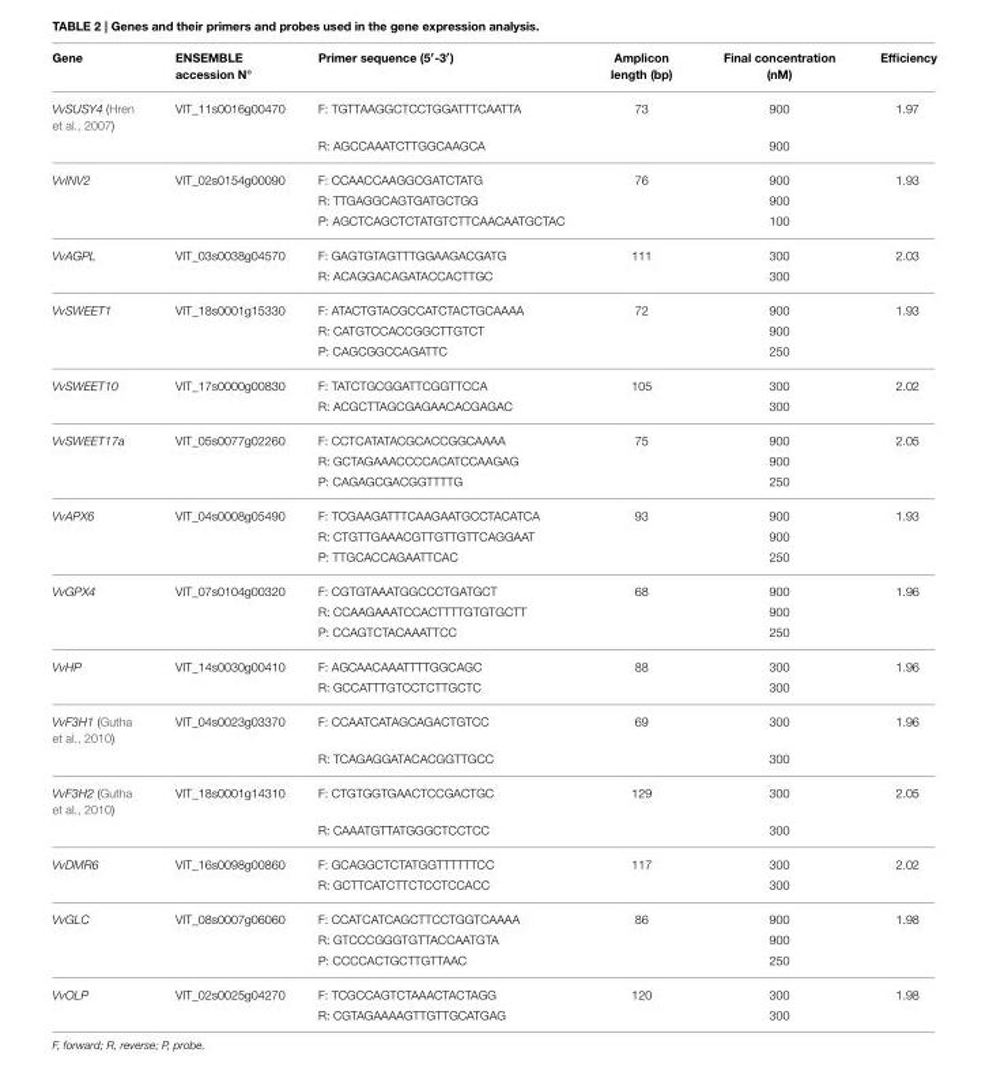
<table><thead><tr><td>Gene</td><td>ENSEMBLE accession N◦</td><td>Primer sequence (5′-3′)</td><td>Amplicon length (bp)</td><td>Final concentration (nM)</td><td>Efficiency</td></tr></thead><tbody><tr><td rowspan="2">VvSUSY4 (Hren et al., 2007)</td><td>VIT_11s0016g00470</td><td>F: TGTTAAGGCTCCTGGATTTCAATTA</td><td>73</td><td>900</td><td>1.97</td></tr><tr><td></td><td>R: AGCCAAATCTTGGCAAGCA</td><td></td><td>900</td><td></td></tr><tr><td rowspan="3">VvINV2</td><td>VIT_02s0154g00090</td><td>F: CCAACCAAGGCGATCTATG</td><td>76</td><td>900</td><td>1.93</td></tr><tr><td></td><td>R: TTGAGGCAGTGATGCTGG</td><td></td><td>900</td><td></td></tr><tr><td></td><td>P: AGCTCAGCTCTATGTCTTCAACAATGCTAC</td><td></td><td>100</td><td></td></tr><tr><td rowspan="2">VvAGPL</td><td>VIT_03s0038g04570</td><td>F: GAGTGTAGTTTGGAAGACGATG</td><td>111</td><td>300</td><td>2.03</td></tr><tr><td></td><td>R: ACAGGACAGATACCACTTGC</td><td></td><td>300</td><td></td></tr><tr><td rowspan="3">VvSWEET1</td><td>VIT_18s0001g15330</td><td>F: ATACTGTACGCCATCTACTGCAAAA</td><td>72</td><td>900</td><td>1.93</td></tr><tr><td></td><td>R: CATGTCCACCGGCTTGTCT</td><td></td><td>900</td><td></td></tr><tr><td></td><td>P: CAGCGGCCAGATTC</td><td></td><td>250</td><td></td></tr><tr><td rowspan="2">VvSWEET10</td><td>VIT_17s0000g00830</td><td>F: TATCTGCGGATTCGGTTCCA</td><td>105</td><td>300</td><td>2.02</td></tr><tr><td></td><td>R: ACGCTTAGCGAGAACACGAGAC</td><td></td><td>300</td><td></td></tr><tr><td rowspan="3">VvSWEET17a</td><td>VIT_05s0077g02260</td><td>F: CCTCATATACGCACCGGCAAAA</td><td>75</td><td>900</td><td>2.05</td></tr><tr><td></td><td>R: GCTAGAAACCCCACATCCAAGAG</td><td></td><td>900</td><td></td></tr><tr><td></td><td>P: CAGAGCGACGGTTTTG</td><td></td><td>250</td><td></td></tr><tr><td rowspan="3">VvAPX6</td><td>VIT_04s0008g05490</td><td>F: TCGAAGATTTCAAGAATGCCTACATCA</td><td>93</td><td>900</td><td>1.93</td></tr><tr><td></td><td>R: CTGTTGAAACGTTGTTGTTCAGGAAT</td><td></td><td>900</td><td></td></tr><tr><td></td><td>P: TTGCACCAGAATTCAC</td><td></td><td>250</td><td></td></tr><tr><td rowspan="3">VvGPX4</td><td>VIT_07s0104g00320</td><td>F: CGTGTAAATGGCCCTGATGCT</td><td>68</td><td>900</td><td>1.96</td></tr><tr><td></td><td>R: CCAAGAAATCCACTTTTGTGTGCTT</td><td></td><td>900</td><td></td></tr><tr><td></td><td>P: CCAGTCTACAAATTCC</td><td></td><td>250</td><td></td></tr><tr><td rowspan="2">VvHP</td><td>VIT_14s0030g00410</td><td>F: AGCAACAAATTTTGGCAGC</td><td>88</td><td>300</td><td>1.96</td></tr><tr><td></td><td>R: GCCATTTGTCCTCTTGCTC</td><td></td><td>300</td><td></td></tr><tr><td rowspan="2">VvF3H1 (Gutha et al., 2010)</td><td>VIT_04s0023g03370</td><td>F: CCAATCATAGCAGACTGTCC</td><td>69</td><td>300</td><td>1.96</td></tr><tr><td></td><td>R: TCAGAGGATACACGGTTGCC</td><td></td><td>300</td><td></td></tr><tr><td rowspan="2">VvF3H2 (Gutha et al., 2010)</td><td>VIT_18s0001g14310</td><td>F: CTGTGGTGAACTCCGACTGC</td><td>129</td><td>300</td><td>2.05</td></tr><tr><td></td><td>R: CAAATGTTATGGGCTCCTCC</td><td></td><td>300</td><td></td></tr><tr><td rowspan="2">VvDMR6</td><td>VIT_16s0098g00860</td><td>F: GCAGGCTCTATGGTTTTTTCC</td><td>117</td><td>300</td><td>2.02</td></tr><tr><td></td><td>R: GCTTCATCTTCTCCTCCACC</td><td></td><td>300</td><td></td></tr><tr><td rowspan="3">VvGLC</td><td>VIT_08s0007g06060</td><td>F: CCATCATCAGCTTCCTGGTCAAAA</td><td>86</td><td>900</td><td>1.98</td></tr><tr><td></td><td>R: GTCCCGGGTGTTACCAATGTA</td><td></td><td>900</td><td></td></tr><tr><td></td><td>P: CCCCACTGCTTGTTAAC</td><td></td><td>250</td><td></td></tr><tr><td rowspan="2">VvOLP</td><td>VIT_02s0025g04270</td><td>F: TCGCCAGTCTAAACTACTAGG</td><td>120</td><td>300</td><td>1.98</td></tr><tr><td></td><td>R: CGTAGAAAAGTTGTTGCATGAG</td><td></td><td>300</td><td></td></tr></tbody></table>